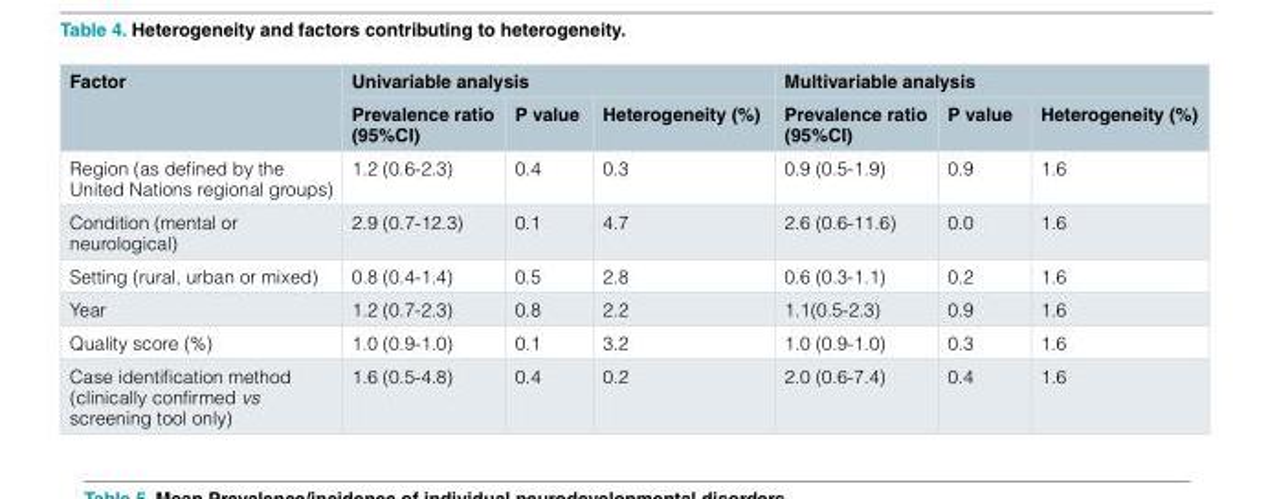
<table><thead><tr><td rowspan="2">Factor</td><td colspan="3">Univariable analysis</td><td colspan="3">Multivariable analysis</td></tr><tr><td>Prevalence ratio (95%CI)</td><td>P value</td><td>Heterogeneity (%)</td><td>Prevalence ratio (95%CI)</td><td>P value</td><td>Heterogeneity (%)</td></tr></thead><tbody><tr><td>Region (as defined by the United Nations regional groups)</td><td>1.2 (0.6-2.3)</td><td>0.4</td><td>0.3</td><td>0.9 (0.5-1.9)</td><td>0.9</td><td>1.6</td></tr><tr><td>Condition (mental or neurological)</td><td>2.9 (0.7-12.3)</td><td>0.1</td><td>4.7</td><td>2.6 (0.6-11.6)</td><td>0.0</td><td>1.6</td></tr><tr><td>Setting (rural, urban or mixed)</td><td>0.8 (0.4-1.4)</td><td>0.5</td><td>2.8</td><td>0.6 (0.3-1.1)</td><td>0.2</td><td>1.6</td></tr><tr><td>Year</td><td>1.2 (0.7-2.3)</td><td>0.8</td><td>2.2</td><td>1.1(0.5-2.3)</td><td>0.9</td><td>1.6</td></tr><tr><td>Quality score (%)</td><td>1.0 (0.9-1.0)</td><td>0.1</td><td>3.2</td><td>1.0 (0.9-1.0)</td><td>0.3</td><td>1.6</td></tr><tr><td>Case identification method (clinically confirmed vs screening tool only)</td><td>1.6 (0.5-4.8)</td><td>0.4</td><td>0.2</td><td>2.0 (0.6-7.4)</td><td>0.4</td><td>1.6</td></tr></tbody></table>